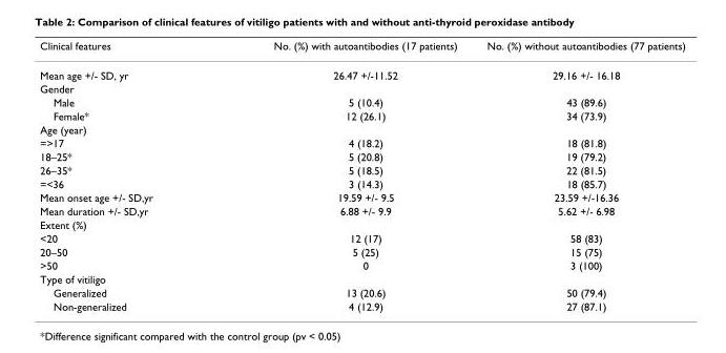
<table><thead><tr><td>Clinical features</td><td>No. (%) with autoantibodies (17 patients)</td><td>No. (%) without autoantibodies (77 patients)</td></tr></thead><tbody><tr><td>Mean age +/- SD, yr</td><td>26.47 +/-11.52</td><td>29.16 +/- 16.18</td></tr><tr><td colspan="3">Gender</td></tr><tr><td>Male</td><td>5 (10.4)</td><td>43 (89.6)</td></tr><tr><td>Female*</td><td>12 (26.1)</td><td>34 (73.9)</td></tr><tr><td colspan="3">Age (year)</td></tr><tr><td>=&gt;17</td><td>4 (18.2)</td><td>18 (81.8)</td></tr><tr><td>18–25*</td><td>5 (20.8)</td><td>19 (79.2)</td></tr><tr><td>26–35*</td><td>5 (18.5)</td><td>22 (81.5)</td></tr><tr><td>=&lt;36</td><td>3 (14.3)</td><td>18 (85.7)</td></tr><tr><td>Mean onset age +/- SD,yr</td><td>19.59 +/- 9.5</td><td>23.59 +/-16.36</td></tr><tr><td>Mean duration +/- SD,yr</td><td>6.88 +/- 9.9</td><td>5.62 +/- 6.98</td></tr><tr><td colspan="3">Extent (%)</td></tr><tr><td>&lt;20</td><td>12 (17)</td><td>58 (83)</td></tr><tr><td>20–50</td><td>5 (25)</td><td>15 (75)</td></tr><tr><td>&gt;50</td><td>0</td><td>3 (100)</td></tr><tr><td colspan="3">Type of vitiligo</td></tr><tr><td>Generalized</td><td>13 (20.6)</td><td>50 (79.4)</td></tr><tr><td>Non-generalized</td><td>4 (12.9)</td><td>27 (87.1)</td></tr></tbody></table>